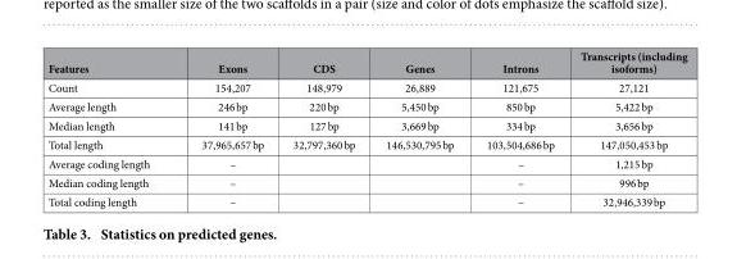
<table><thead><tr><td>Features</td><td>Exons</td><td>CDS</td><td>Genes</td><td>Introns</td><td>Transcripts (including isoforms)</td></tr></thead><tbody><tr><td>Count</td><td>154,207</td><td>148,979</td><td>26,889</td><td>121,675</td><td>27,121</td></tr><tr><td>Average length</td><td>246 bp</td><td>220 bp</td><td>5,450 bp</td><td>850 bp</td><td>5,422 bp</td></tr><tr><td>Median length</td><td>141 bp</td><td>127 bp</td><td>3,669 bp</td><td>334 bp</td><td>3,656 bp</td></tr><tr><td>Total length</td><td>37,965,657 bp</td><td>32,797,360 bp</td><td>146,530,795 bp</td><td>103,504,686 bp</td><td>147,050,453 bp</td></tr><tr><td>Average coding length</td><td>–</td><td></td><td></td><td>–</td><td>1,215 bp</td></tr><tr><td>Median coding length</td><td>–</td><td></td><td></td><td>–</td><td>996 bp</td></tr><tr><td>Total coding length</td><td>–</td><td></td><td></td><td>–</td><td>32,946,339 bp</td></tr></tbody></table>